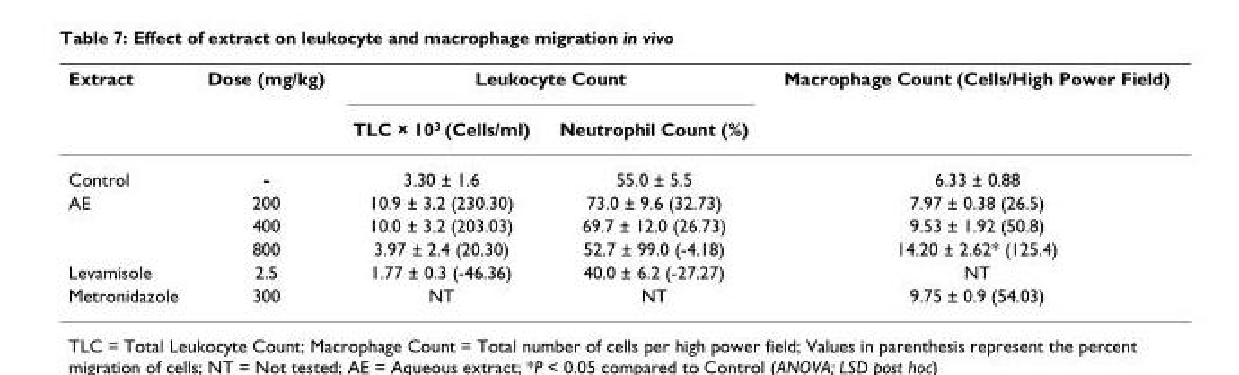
<table><thead><tr><td rowspan="2">Extract</td><td rowspan="2">Dose (mg/kg)</td><td colspan="2">Leukocyte Count</td><td rowspan="2">Macrophage Count (Cells/High Power Field)</td></tr><tr><td>TLC × 10<sup>3</sup> (Cells/ml)</td><td>Neutrophil Count (%)</td></tr></thead><tbody><tr><td>Control</td><td>-</td><td>3.30 ± 1.6</td><td>55.0 ± 5.5</td><td>6.33 ± 0.88</td></tr><tr><td rowspan="3">AE</td><td>200</td><td>10.9 ± 3.2 (230.30)</td><td>73.0 ± 9.6 (32.73)</td><td>7.97 ± 0.38 (26.5)</td></tr><tr><td>400</td><td>10.0 ± 3.2 (203.03)</td><td>69.7 ± 12.0 (26.73)</td><td>9.53 ± 1.92 (50.8)</td></tr><tr><td>800</td><td>3.97 ± 2.4 (20.30)</td><td>52.7 ± 99.0 (-4.18)</td><td>14.20 ± 2.62* (125.4)</td></tr><tr><td>Levamisole</td><td>2.5</td><td>1.77 ± 0.3 (-46.36)</td><td>40.0 ± 6.2 (-27.27)</td><td>NT</td></tr><tr><td>Metronidazole</td><td>300</td><td>NT</td><td>NT</td><td>9.75 ± 0.9 (54.03)</td></tr></tbody></table>